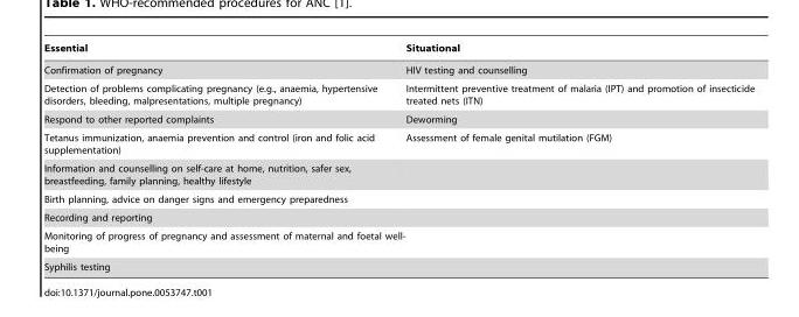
<table><thead><tr><td>Essential</td><td>Situational</td></tr></thead><tbody><tr><td>Confirmation of pregnancy</td><td>HIV testing and counselling</td></tr><tr><td>Detection of problems complicating pregnancy (e.g., anaemia, hypertensive disorders, bleeding, malpresentations, multiple pregnancy)</td><td>Intermittent preventive treatment of malaria (IPT) and promotion of insecticide treated nets (ITN)</td></tr><tr><td>Respond to other reported complaints</td><td>Deworming</td></tr><tr><td>Tetanus immunization, anaemia prevention and control (iron and folic acid supplementation)</td><td>Assessment of female genital mutilation (FGM)</td></tr><tr><td colspan="2">Information and counselling on self-care at home, nutrition, safer sex, breastfeeding, family planning, healthy lifestyle</td></tr><tr><td colspan="2">Birth planning, advice on danger signs and emergency preparedness</td></tr><tr><td colspan="2">Recording and reporting</td></tr><tr><td colspan="2">Monitoring of progress of pregnancy and assessment of maternal and foetal well- being</td></tr><tr><td>Syphilis testing</td><td></td></tr></tbody></table>